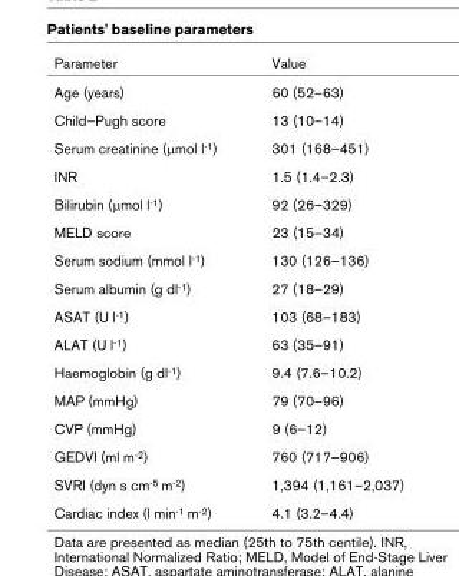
<table><thead><tr><td>Parameter</td><td>Value</td></tr></thead><tbody><tr><td>Age (years)</td><td>60 (52–63)</td></tr><tr><td>Child–Pugh score</td><td>13 (10–14)</td></tr><tr><td>Serum creatinine (μmol l<sup>-1</sup>)</td><td>301 (168–451)</td></tr><tr><td>INR</td><td>1.5 (1.4–2.3)</td></tr><tr><td>Bilirubin (μmol l<sup>-1</sup>)</td><td>92 (26–329)</td></tr><tr><td>MELD score</td><td>23 (15–34)</td></tr><tr><td>Serum sodium (mmol l<sup>-1</sup>)</td><td>130 (126–136)</td></tr><tr><td>Serum albumin (g dl<sup>-1</sup>)</td><td>27 (18–29)</td></tr><tr><td>ASAT (U l<sup>-1</sup>)</td><td>103 (68–183)</td></tr><tr><td>ALAT (U l<sup>-1</sup>)</td><td>63 (35–91)</td></tr><tr><td>Haemoglobin (g dl<sup>-1</sup>)</td><td>9.4 (7.6–10.2)</td></tr><tr><td>MAP (mmHg)</td><td>79 (70–96)</td></tr><tr><td>CVP (mmHg)</td><td>9 (6–12)</td></tr><tr><td>GEDVI (ml m<sup>-2</sup>)</td><td>760 (717–906)</td></tr><tr><td>SVRI (dyn s cm<sup>-5</sup> m<sup>-2</sup>)</td><td>1,394 (1,161–2,037)</td></tr><tr><td>Cardiac index (l min<sup>-1</sup> m<sup>-2</sup>)</td><td>4.1 (3.2–4.4)</td></tr></tbody></table>